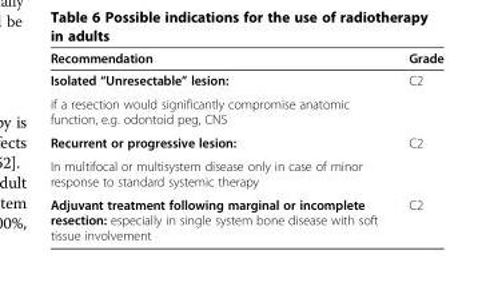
<table><thead><tr><td>Recommendation</td><td>Grade</td></tr></thead><tbody><tr><td>Isolated “Unresectable” lesion:</td><td>C2</td></tr><tr><td colspan="2">if a resection would significantly compromise anatomic function, e.g. odontoid peg, CNS</td></tr><tr><td>Recurrent or progressive lesion:</td><td>C2</td></tr><tr><td colspan="2">In multifocal or multisystem disease only in case of minor response to standard systemic therapy</td></tr><tr><td>Adjuvant treatment following marginal or incomplete resection: especially in single system bone disease with soft tissue involvement</td><td>C2</td></tr></tbody></table>